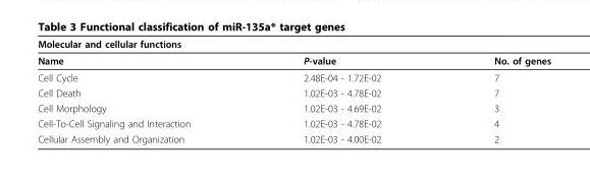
<table><thead><tr><td colspan="3">Molecular and cellular functions</td></tr><tr><td>Name</td><td>P-value</td><td>No. of genes</td></tr></thead><tbody><tr><td>Cell Cycle</td><td>2.48E-04 - 1.72E-02</td><td>7</td></tr><tr><td>Cell Death</td><td>1.02E-03 - 4.78E-02</td><td>7</td></tr><tr><td>Cell Morphology</td><td>1.02E-03 - 4.69E-02</td><td>3</td></tr><tr><td>Cell-To-Cell Signaling and Interaction</td><td>1.02E-03 - 4.78E-02</td><td>4</td></tr><tr><td>Cellular Assembly and Organization</td><td>1.02E-03 - 4.00E-02</td><td>2</td></tr></tbody></table>